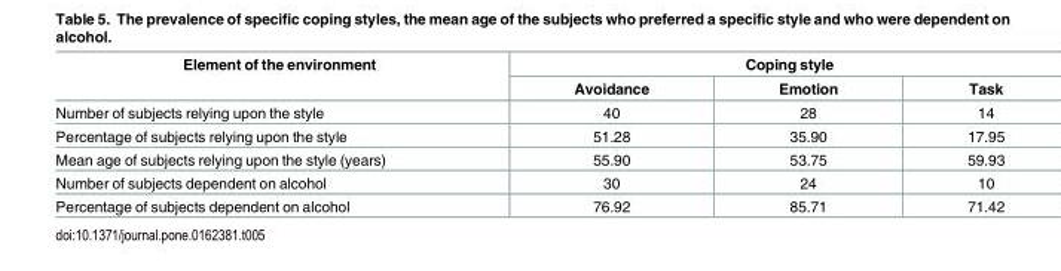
<table><thead><tr><td rowspan="2">Element of the environment</td><td colspan="3">Coping style</td></tr><tr><td>Avoidance</td><td>Emotion</td><td>Task</td></tr></thead><tbody><tr><td>Number of subjects relying upon the style</td><td>40</td><td>28</td><td>14</td></tr><tr><td>Percentage of subjects relying upon the style</td><td>51.28</td><td>35.90</td><td>17.95</td></tr><tr><td>Mean age of subjects relying upon the style (years)</td><td>55.90</td><td>53.75</td><td>59.93</td></tr><tr><td>Number of subjects dependent on alcohol</td><td>30</td><td>24</td><td>10</td></tr><tr><td>Percentage of subjects dependent on alcohol</td><td>76.92</td><td>85.71</td><td>71.42</td></tr></tbody></table>